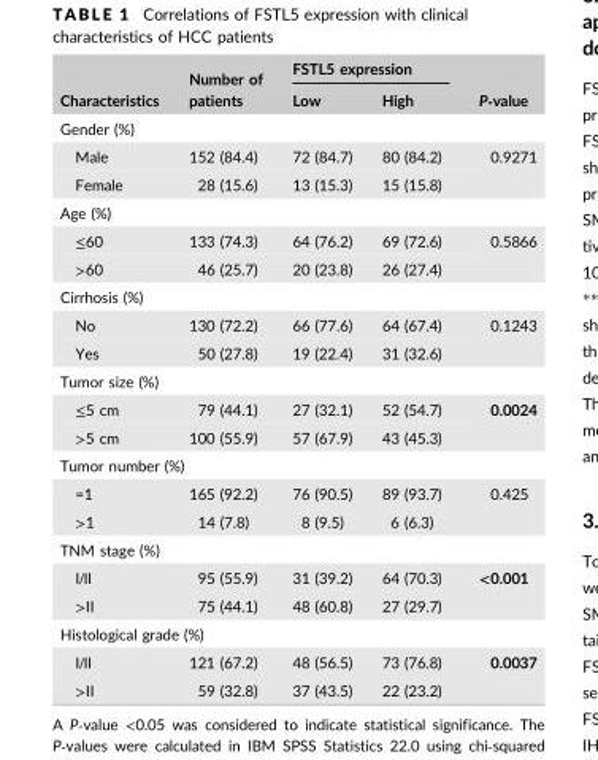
<table><thead><tr><td rowspan="2">Characteristics</td><td rowspan="2">Number of patients</td><td colspan="2">FSTL5 expression</td><td rowspan="2">P‐value</td></tr><tr><td>Low</td><td>High</td></tr></thead><tbody><tr><td colspan="5">Gender (%)</td></tr><tr><td>Male</td><td>152 (84.4)</td><td>72 (84.7)</td><td>80 (84.2)</td><td rowspan="2">0.9271</td></tr><tr><td>Female</td><td>28 (15.6)</td><td>13 (15.3)</td><td>15 (15.8)</td></tr><tr><td colspan="5">Age (%)</td></tr><tr><td>≤60</td><td>133 (74.3)</td><td>64 (76.2)</td><td>69 (72.6)</td><td rowspan="2">0.5866</td></tr><tr><td>&gt;60</td><td>46 (25.7)</td><td>20 (23.8)</td><td>26 (27.4)</td></tr><tr><td colspan="5">Cirrhosis (%)</td></tr><tr><td>No</td><td>130 (72.2)</td><td>66 (77.6)</td><td>64 (67.4)</td><td rowspan="2">0.1243</td></tr><tr><td>Yes</td><td>50 (27.8)</td><td>19 (22.4)</td><td>31 (32.6)</td></tr><tr><td colspan="5">Tumor size (%)</td></tr><tr><td>≤5 cm</td><td>79 (44.1)</td><td>27 (32.1)</td><td>52 (54.7)</td><td rowspan="2">0.0024</td></tr><tr><td>&gt;5 cm</td><td>100 (55.9)</td><td>57 (67.9)</td><td>43 (45.3)</td></tr><tr><td colspan="5">Tumor number (%)</td></tr><tr><td>=1</td><td>165 (92.2)</td><td>76 (90.5)</td><td>89 (93.7)</td><td rowspan="2">0.425</td></tr><tr><td>&gt;1</td><td>14 (7.8)</td><td>8 (9.5)</td><td>6 (6.3)</td></tr><tr><td colspan="5">TNM stage (%)</td></tr><tr><td>I/II</td><td>95 (55.9)</td><td>31 (39.2)</td><td>64 (70.3)</td><td rowspan="2">&lt;0.001</td></tr><tr><td>&gt;II</td><td>75 (44.1)</td><td>48 (60.8)</td><td>27 (29.7)</td></tr><tr><td colspan="5">Histological grade (%)</td></tr><tr><td>I/II</td><td>121 (67.2)</td><td>48 (56.5)</td><td>73 (76.8)</td><td rowspan="2">0.0037</td></tr><tr><td>&gt;II</td><td>59 (32.8)</td><td>37 (43.5)</td><td>22 (23.2)</td></tr></tbody></table>